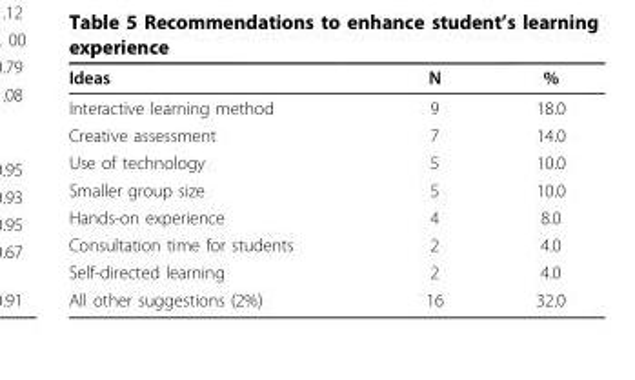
<table><thead><tr><td>Ideas</td><td>N</td><td>%</td></tr></thead><tbody><tr><td>Interactive learning method</td><td>9</td><td>18.0</td></tr><tr><td>Creative assessment</td><td>7</td><td>14.0</td></tr><tr><td>Use of technology</td><td>5</td><td>10.0</td></tr><tr><td>Smaller group size</td><td>5</td><td>10.0</td></tr><tr><td>Hands-on experience</td><td>4</td><td>8.0</td></tr><tr><td>Consultation time for students</td><td>2</td><td>4.0</td></tr><tr><td>Self-directed learning</td><td>2</td><td>4.0</td></tr><tr><td>All other suggestions (2%)</td><td>16</td><td>32.0</td></tr></tbody></table>